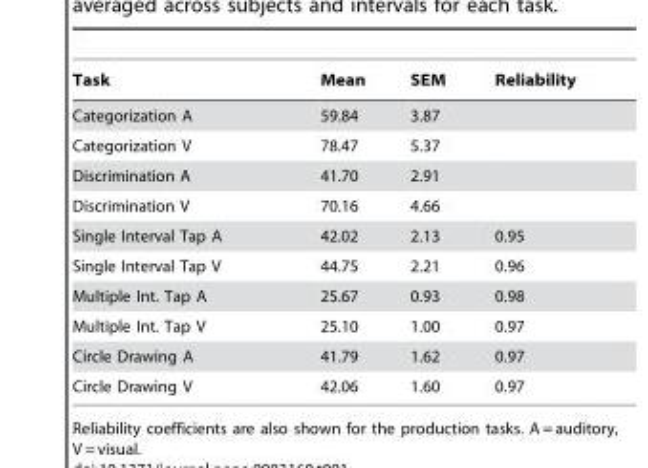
<table><thead><tr><td>Task</td><td>Mean</td><td>SEM</td><td>Reliability</td></tr></thead><tbody><tr><td>Categorization A</td><td>59.84</td><td>3.87</td><td></td></tr><tr><td>Categorization V</td><td>78.47</td><td>5.37</td><td></td></tr><tr><td>Discrimination A</td><td>41.70</td><td>2.91</td><td></td></tr><tr><td>Discrimination V</td><td>70.16</td><td>4.66</td><td></td></tr><tr><td>Single Interval Tap A</td><td>42.02</td><td>2.13</td><td>0.95</td></tr><tr><td>Single Interval Tap V</td><td>44.75</td><td>2.21</td><td>0.96</td></tr><tr><td>Multiple Int. Tap A</td><td>25.67</td><td>0.93</td><td>0.98</td></tr><tr><td>Multiple Int. Tap V</td><td>25.10</td><td>1.00</td><td>0.97</td></tr><tr><td>Circle Drawing A</td><td>41.79</td><td>1.62</td><td>0.97</td></tr><tr><td>Circle Drawing V</td><td>42.06</td><td>1.60</td><td>0.97</td></tr></tbody></table>